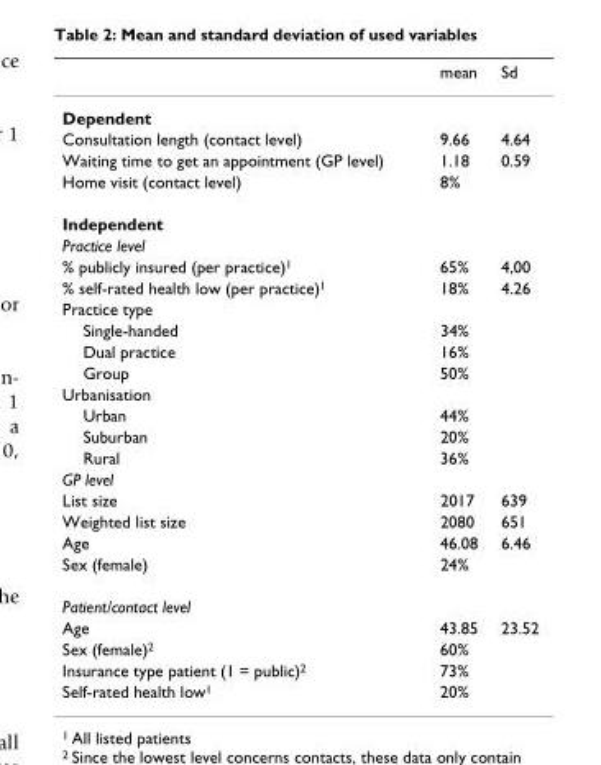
<table><thead><tr><td></td><td>mean</td><td>Sd</td></tr></thead><tbody><tr><td colspan="3">Dependent</td></tr><tr><td>Consultation length (contact level)</td><td>9.66</td><td>4.64</td></tr><tr><td>Waiting time to get an appointment (GP level)</td><td>1.18</td><td>0.59</td></tr><tr><td>Home visit (contact level)</td><td>8%</td><td></td></tr><tr><td colspan="3">Independent</td></tr><tr><td colspan="3">Practice level</td></tr><tr><td>% publicly insured (per practice)<sup>1</sup></td><td>65%</td><td>4,00</td></tr><tr><td>% self-rated health low (per practice)<sup>1</sup></td><td>18%</td><td>4.26</td></tr><tr><td colspan="3">Practice type</td></tr><tr><td>Single-handed</td><td>34%</td><td></td></tr><tr><td>Dual practice</td><td>16%</td><td></td></tr><tr><td>Group</td><td>50%</td><td></td></tr><tr><td colspan="3">Urbanisation</td></tr><tr><td>Urban</td><td>44%</td><td></td></tr><tr><td>Suburban</td><td>20%</td><td></td></tr><tr><td>Rural</td><td>36%</td><td></td></tr><tr><td colspan="3">GP level</td></tr><tr><td>List size</td><td>2017</td><td>639</td></tr><tr><td>Weighted list size</td><td>2080</td><td>651</td></tr><tr><td>Age</td><td>46.08</td><td>6.46</td></tr><tr><td>Sex (female)</td><td>24%</td><td></td></tr><tr><td colspan="3">Patient/contact level</td></tr><tr><td>Age</td><td>43.85</td><td>23.52</td></tr><tr><td>Sex (female)<sup>2</sup></td><td>60%</td><td></td></tr><tr><td>Insurance type patient (1 = public)<sup>2</sup></td><td>73%</td><td></td></tr><tr><td>Self-rated health low<sup>1</sup></td><td>20%</td><td></td></tr></tbody></table>